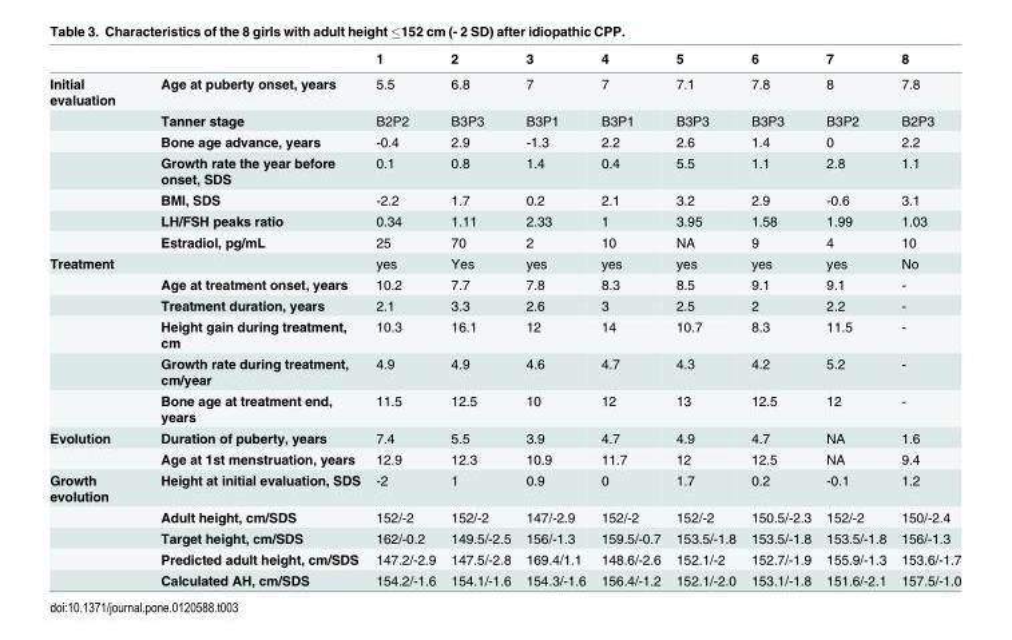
<table><thead><tr><td></td><td></td><td>1</td><td>2</td><td>3</td><td>4</td><td>5</td><td>6</td><td>7</td><td>8</td></tr></thead><tbody><tr><td rowspan="7">Initial evaluation</td><td>Age at puberty onset, years</td><td>5.5</td><td>6.8</td><td>7</td><td>7</td><td>7.1</td><td>7.8</td><td>8</td><td>7.8</td></tr><tr><td>Tanner stage</td><td>B2P2</td><td>B3P3</td><td>B3P1</td><td>B3P1</td><td>B3P3</td><td>B3P3</td><td>B3P2</td><td>B2P3</td></tr><tr><td>Bone age advance, years</td><td>-0.4</td><td>2.9</td><td>-1.3</td><td>2.2</td><td>2.6</td><td>1.4</td><td>0</td><td>2.2</td></tr><tr><td>Growth rate the year before onset, SDS</td><td>0.1</td><td>0.8</td><td>1.4</td><td>0.4</td><td>5.5</td><td>1.1</td><td>2.8</td><td>1.1</td></tr><tr><td>BMI, SDS</td><td>-2.2</td><td>1.7</td><td>0.2</td><td>2.1</td><td>3.2</td><td>2.9</td><td>-0.6</td><td>3.1</td></tr><tr><td>LH/FSH peaks ratio</td><td>0.34</td><td>1.11</td><td>2.33</td><td>1</td><td>3.95</td><td>1.58</td><td>1.99</td><td>1.03</td></tr><tr><td>Estradiol, pg/mL</td><td>25</td><td>70</td><td>2</td><td>10</td><td>NA</td><td>9</td><td>4</td><td>10</td></tr><tr><td rowspan="6">Treatment</td><td></td><td>yes</td><td>Yes</td><td>yes</td><td>yes</td><td>yes</td><td>yes</td><td>yes</td><td>No</td></tr><tr><td>Age at treatment onset, years</td><td>10.2</td><td>7.7</td><td>7.8</td><td>8.3</td><td>8.5</td><td>9.1</td><td>9.1</td><td>-</td></tr><tr><td>Treatment duration, years</td><td>2.1</td><td>3.3</td><td>2.6</td><td>3</td><td>2.5</td><td>2</td><td>2.2</td><td>-</td></tr><tr><td>Height gain during treatment, cm</td><td>10.3</td><td>16.1</td><td>12</td><td>14</td><td>10.7</td><td>8.3</td><td>11.5</td><td>-</td></tr><tr><td>Growth rate during treatment, cm/year</td><td>4.9</td><td>4.9</td><td>4.6</td><td>4.7</td><td>4.3</td><td>4.2</td><td>5.2</td><td>-</td></tr><tr><td>Bone age at treatment end, years</td><td>11.5</td><td>12.5</td><td>10</td><td>12</td><td>13</td><td>12.5</td><td>12</td><td>-</td></tr><tr><td rowspan="2">Evolution</td><td>Duration of puberty, years</td><td>7.4</td><td>5.5</td><td>3.9</td><td>4.7</td><td>4.9</td><td>4.7</td><td>NA</td><td>1.6</td></tr><tr><td>Age at 1st menstruation, years</td><td>12.9</td><td>12.3</td><td>10.9</td><td>11.7</td><td>12</td><td>12.5</td><td>NA</td><td>9.4</td></tr><tr><td rowspan="5">Growth evolution</td><td>Height at initial evaluation, SDS</td><td>-2</td><td>1</td><td>0.9</td><td>0</td><td>1.7</td><td>0.2</td><td>-0.1</td><td>1.2</td></tr><tr><td>Adult height, cm/SDS</td><td>152/-2</td><td>152/-2</td><td>147/-2.9</td><td>152/-2</td><td>152/-2</td><td>150.5/-2.3</td><td>152/-2</td><td>150/-2.4</td></tr><tr><td>Target height, cm/SDS</td><td>162/-0.2</td><td>149.5/-2.5</td><td>156/-1.3</td><td>159.5/-0.7</td><td>153.5/-1.8</td><td>153.5/-1.8</td><td>153.5/-1.8</td><td>156/-1.3</td></tr><tr><td>Predicted adult height, cm/SDS</td><td>147.2/-2.9</td><td>147.5/-2.8</td><td>169.4/1.1</td><td>148.6/-2.6</td><td>152.1/-2</td><td>152.7/-1.9</td><td>155.9/-1.3</td><td>153.6/-1.7</td></tr><tr><td>Calculated AH, cm/SDS</td><td>154.2/-1.6</td><td>154.1/-1.6</td><td>154.3/-1.6</td><td>156.4/-1.2</td><td>152.1/-2.0</td><td>153.1/-1.8</td><td>151.6/-2.1</td><td>157.5/-1.0</td></tr></tbody></table>